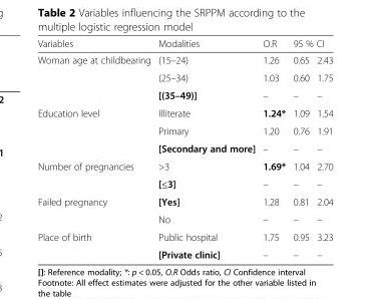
<table><thead><tr><td rowspan="2">Variables Woman age at childbearing</td><td rowspan="2">Modalities (15–24)</td><td rowspan="2">O.R 1.26</td><td colspan="2">95 % CI</td></tr><tr><td>0.65</td><td>2.43</td></tr></thead><tbody><tr><td></td><td>(25–34)</td><td>1.03</td><td>0.60</td><td>1.75</td></tr><tr><td></td><td>[(35–49)]</td><td>–</td><td>–</td><td>–</td></tr><tr><td rowspan="3">Education level</td><td>Illiterate</td><td>1.24*</td><td>1.09</td><td>1.54</td></tr><tr><td>Primary</td><td>1.20</td><td>0.76</td><td>1.91</td></tr><tr><td>[Secondary and more]</td><td>–</td><td>–</td><td>–</td></tr><tr><td rowspan="2">Number of pregnancies</td><td>&gt;3</td><td>1.69*</td><td>1.04</td><td>2.70</td></tr><tr><td>[≤3]</td><td>–</td><td>–</td><td>–</td></tr><tr><td rowspan="2">Failed pregnancy</td><td>[Yes]</td><td>1.28</td><td>0.81</td><td>2.04</td></tr><tr><td>No</td><td>–</td><td>–</td><td>–</td></tr><tr><td rowspan="2">Place of birth</td><td>Public hospital</td><td>1.75</td><td>0.95</td><td>3.23</td></tr><tr><td>[Private clinic]</td><td>–</td><td>–</td><td>–</td></tr></tbody></table>